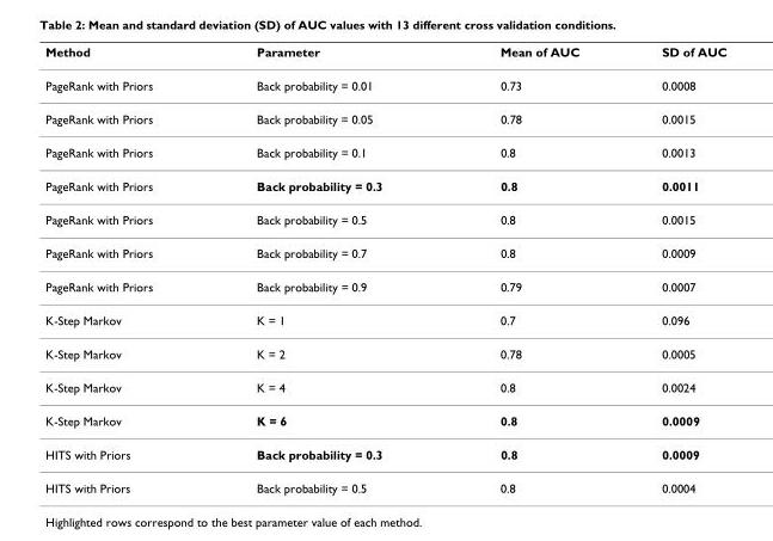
<table><thead><tr><td>Method</td><td>Parameter</td><td>Mean of AUC</td><td>SD of AUC</td></tr></thead><tbody><tr><td>PageRank with Priors</td><td>Back probability = 0.01</td><td>0.73</td><td>0.0008</td></tr><tr><td>PageRank with Priors</td><td>Back probability = 0.05</td><td>0.78</td><td>0.0015</td></tr><tr><td>PageRank with Priors</td><td>Back probability = 0.1</td><td>0.8</td><td>0.0013</td></tr><tr><td>PageRank with Priors</td><td>Back probability = 0.3</td><td>0.8</td><td>0.0011</td></tr><tr><td>PageRank with Priors</td><td>Back probability = 0.5</td><td>0.8</td><td>0.0015</td></tr><tr><td>PageRank with Priors</td><td>Back probability = 0.7</td><td>0.8</td><td>0.0009</td></tr><tr><td>PageRank with Priors</td><td>Back probability = 0.9</td><td>0.79</td><td>0.0007</td></tr><tr><td>K-Step Markov</td><td>K = 1</td><td>0.7</td><td>0.096</td></tr><tr><td>K-Step Markov</td><td>K = 2</td><td>0.78</td><td>0.0005</td></tr><tr><td>K-Step Markov</td><td>K = 4</td><td>0.8</td><td>0.0024</td></tr><tr><td>K-Step Markov</td><td>K = 6</td><td>0.8</td><td>0.0009</td></tr><tr><td>HITS with Priors</td><td>Back probability = 0.3</td><td>0.8</td><td>0.0009</td></tr><tr><td>HITS with Priors</td><td>Back probability = 0.5</td><td>0.8</td><td>0.0004</td></tr></tbody></table>